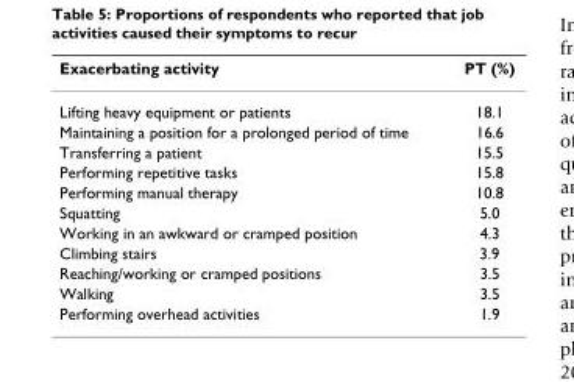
<table><thead><tr><td>Exacerbating activity</td><td>PT (%)</td></tr></thead><tbody><tr><td>Lifting heavy equipment or patients</td><td>18.1</td></tr><tr><td>Maintaining a position for a prolonged period of time</td><td>16.6</td></tr><tr><td>Transferring a patient</td><td>15.5</td></tr><tr><td>Performing repetitive tasks</td><td>15.8</td></tr><tr><td>Performing manual therapy</td><td>10.8</td></tr><tr><td>Squatting</td><td>5.0</td></tr><tr><td>Working in an awkward or cramped position</td><td>4.3</td></tr><tr><td>Climbing stairs</td><td>3.9</td></tr><tr><td>Reaching/working or cramped positions</td><td>3.5</td></tr><tr><td>Walking</td><td>3.5</td></tr><tr><td>Performing overhead activities</td><td>1.9</td></tr></tbody></table>